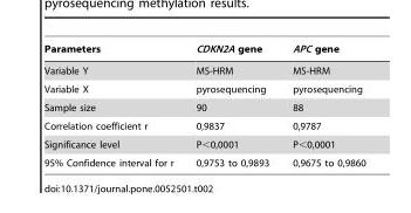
<table><thead><tr><td>Parameters</td><td>CDKN2A gene</td><td>APC gene</td></tr></thead><tbody><tr><td>Variable Y</td><td>MS-HRM</td><td>MS-HRM</td></tr><tr><td>Variable X</td><td>pyrosequencing</td><td>pyrosequencing</td></tr><tr><td>Sample size</td><td>90</td><td>88</td></tr><tr><td>Correlation coefficient r</td><td>0,9837</td><td>0,9787</td></tr><tr><td>Significance level</td><td>P&lt;0,0001</td><td>P&lt;0,0001</td></tr><tr><td>95% Confidence interval for r</td><td>0,9753 to 0,9893</td><td>0,9675 to 0,9860</td></tr></tbody></table>